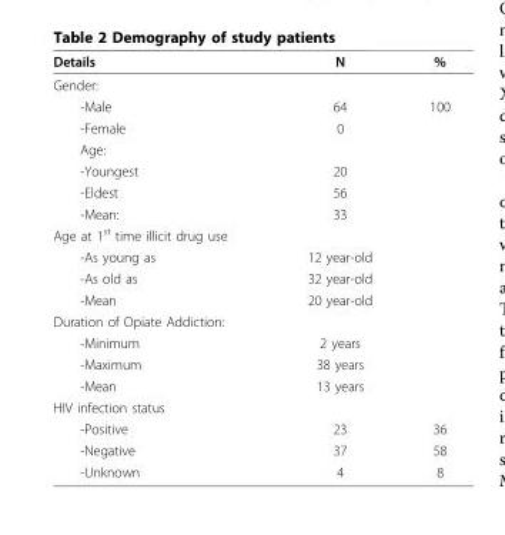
<table><thead><tr><td>Details</td><td>N</td><td>%</td></tr></thead><tbody><tr><td colspan="3">Gender:</td></tr><tr><td>-Male</td><td>64</td><td>100</td></tr><tr><td>-Female</td><td>0</td><td></td></tr><tr><td colspan="3">Age:</td></tr><tr><td>-Youngest</td><td>20</td><td></td></tr><tr><td>-Eldest</td><td>56</td><td></td></tr><tr><td>-Mean:</td><td>33</td><td></td></tr><tr><td colspan="3">Age at 1<sup>st</sup> time illicit drug use</td></tr><tr><td>-As young as</td><td>12 year-old</td><td></td></tr><tr><td>-As old as</td><td>32 year-old</td><td></td></tr><tr><td>-Mean</td><td>20 year-old</td><td></td></tr><tr><td colspan="3">Duration of Opiate Addiction:</td></tr><tr><td>-Minimum</td><td>2 years</td><td></td></tr><tr><td>-Maximum</td><td>38 years</td><td></td></tr><tr><td>-Mean</td><td>13 years</td><td></td></tr><tr><td colspan="3">HIV infection status</td></tr><tr><td>-Positive</td><td>23</td><td>36</td></tr><tr><td>-Negative</td><td>37</td><td>58</td></tr><tr><td>-Unknown</td><td>4</td><td>8</td></tr></tbody></table>